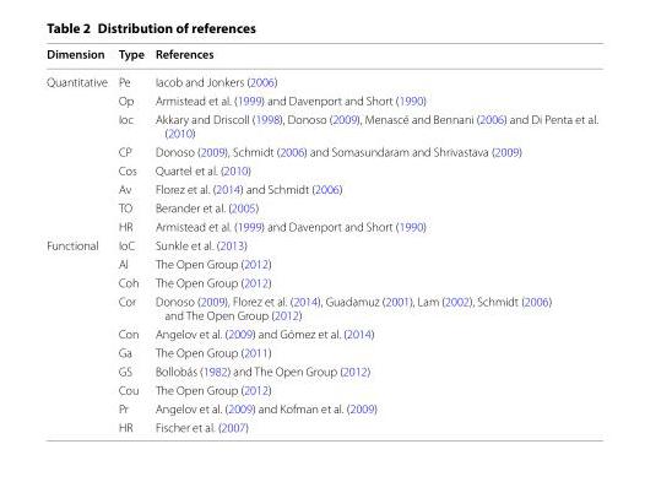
<table><thead><tr><td>Dimension</td><td>Type</td><td>References</td></tr></thead><tbody><tr><td rowspan="8">Quantitative</td><td>Pe</td><td>Iacob and Jonkers (2006)</td></tr><tr><td>Op</td><td>Armistead et al. (1999) and Davenport and Short (1990)</td></tr><tr><td>Ioc</td><td>Akkary and Driscoll (1998), Donoso (2009), Menascé and Bennani (2006) and Di Penta et al. (2010)</td></tr><tr><td>CP</td><td>Donoso (2009), Schmidt (2006) and Somasundaram and Shrivastava (2009)</td></tr><tr><td>Cos</td><td>Quartel et al. (2010)</td></tr><tr><td>Av</td><td>Florez et al. (2014) and Schmidt (2006)</td></tr><tr><td>TO</td><td>Berander et al. (2005)</td></tr><tr><td>HR</td><td>Armistead et al. (1999) and Davenport and Short (1990)</td></tr><tr><td rowspan="10">Functional</td><td>IoC</td><td>Sunkle et al. (2013)</td></tr><tr><td>Al</td><td>The Open Group (2012)</td></tr><tr><td>Coh</td><td>The Open Group (2012)</td></tr><tr><td>Cor</td><td>Donoso (2009), Florez et al. (2014), Guadamuz (2001), Lam (2002), Schmidt (2006) and The Open Group (2012)</td></tr><tr><td>Con</td><td>Angelov et al. (2009) and Gómez et al. (2014)</td></tr><tr><td>Ga</td><td>The Open Group (2011)</td></tr><tr><td>GS</td><td>Bollobás (1982) and The Open Group (2012)</td></tr><tr><td>Cou</td><td>The Open Group (2012)</td></tr><tr><td>Pr</td><td>Angelov et al. (2009) and Kofman et al. (2009)</td></tr><tr><td>HR</td><td>Fischer et al. (2007)</td></tr></tbody></table>